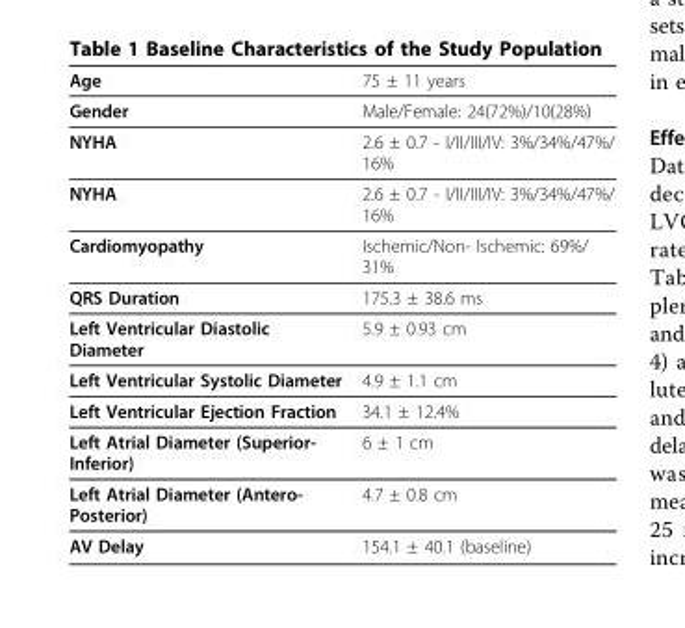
<table><thead><tr><td>Age</td><td>75 ± 11 years</td></tr></thead><tbody><tr><td>Gender</td><td>Male/Female: 24(72%)/10(28%)</td></tr><tr><td>NYHA</td><td>2.6 ± 0.7 - I/II/III/IV: 3%/34%/47%/ 16%</td></tr><tr><td>NYHA</td><td>2.6 ± 0.7 - I/II/III/IV: 3%/34%/47%/ 16%</td></tr><tr><td>Cardiomyopathy</td><td>Ischemic/Non- Ischemic: 69%/ 31%</td></tr><tr><td>QRS Duration</td><td>175.3 ± 38.6 ms</td></tr><tr><td>Left Ventricular Diastolic Diameter</td><td>5.9 ± 0.93 cm</td></tr><tr><td>Left Ventricular Systolic Diameter</td><td>4.9 ± 1.1 cm</td></tr><tr><td>Left Ventricular Ejection Fraction</td><td>34.1 ± 12.4%</td></tr><tr><td>Left Atrial Diameter (Superior- Inferior)</td><td>6 ± 1 cm</td></tr><tr><td>Left Atrial Diameter (Antero- Posterior)</td><td>4.7 ± 0.8 cm</td></tr><tr><td>AV Delay</td><td>154.1 ± 40.1 (baseline)</td></tr></tbody></table>